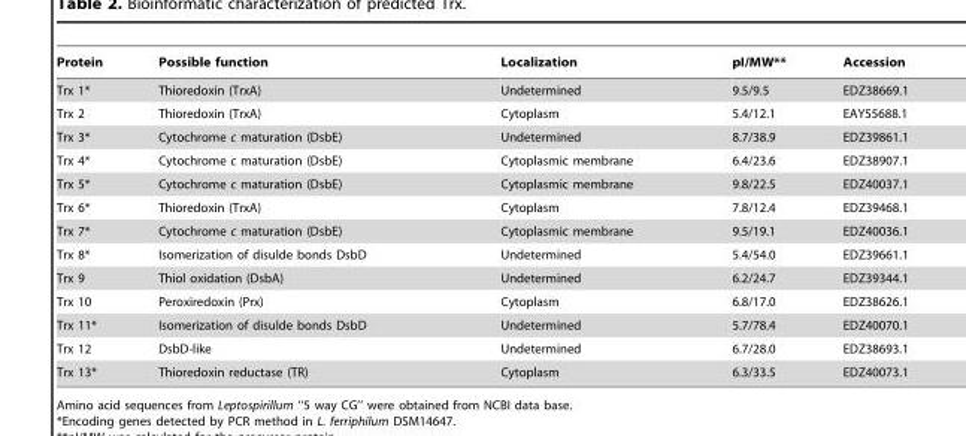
<table><thead><tr><td>Protein</td><td>Possible function</td><td>Localization</td><td>pI/MW**</td><td>Accession</td></tr></thead><tbody><tr><td>Trx 1*</td><td>Thioredoxin (TrxA)</td><td>Undetermined</td><td>9.5/9.5</td><td>EDZ38669.1</td></tr><tr><td>Trx 2</td><td>Thioredoxin (TrxA)</td><td>Cytoplasm</td><td>5.4/12.1</td><td>EAY55688.1</td></tr><tr><td>Trx 3*</td><td>Cytochrome c maturation (DsbE)</td><td>Undetermined</td><td>8.7/38.9</td><td>EDZ39861.1</td></tr><tr><td>Trx 4*</td><td>Cytochrome c maturation (DsbE)</td><td>Cytoplasmic membrane</td><td>6.4/23.6</td><td>EDZ38907.1</td></tr><tr><td>Trx 5*</td><td>Cytochrome c maturation (DsbE)</td><td>Cytoplasmic membrane</td><td>9.8/22.5</td><td>EDZ40037.1</td></tr><tr><td>Trx 6*</td><td>Thioredoxin (TrxA)</td><td>Cytoplasm</td><td>7.8/12.4</td><td>EDZ39468.1</td></tr><tr><td>Trx 7*</td><td>Cytochrome c maturation (DsbE)</td><td>Cytoplasmic membrane</td><td>9.5/19.1</td><td>EDZ40036.1</td></tr><tr><td>Trx 8*</td><td>Isomerization of disulde bonds DsbD</td><td>Undetermined</td><td>5.4/54.0</td><td>EDZ39661.1</td></tr><tr><td>Trx 9</td><td>Thiol oxidation (DsbA)</td><td>Undetermined</td><td>6.2/24.7</td><td>EDZ39344.1</td></tr><tr><td>Trx 10</td><td>Peroxiredoxin (Prx)</td><td>Cytoplasm</td><td>6.8/17.0</td><td>EDZ38626.1</td></tr><tr><td>Trx 11*</td><td>Isomerization of disulde bonds DsbD</td><td>Undetermined</td><td>5.7/78.4</td><td>EDZ40070.1</td></tr><tr><td>Trx 12</td><td>DsbD-like</td><td>Undetermined</td><td>6.7/28.0</td><td>EDZ38693.1</td></tr><tr><td>Trx 13*</td><td>Thioredoxin reductase (TR)</td><td>Cytoplasm</td><td>6.3/33.5</td><td>EDZ40073.1</td></tr></tbody></table>